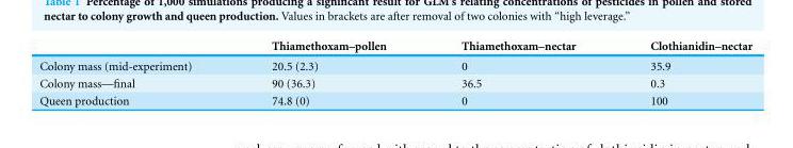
<table><thead><tr><td></td><td>Thiamethoxam–pollen</td><td>Thiamethoxam–nectar</td><td>Clothianidin–nectar</td></tr></thead><tbody><tr><td>Colony mass (mid-experiment)</td><td>20.5 (2.3)</td><td>0</td><td>35.9</td></tr><tr><td>Colony mass—final</td><td>90 (36.3)</td><td>36.5</td><td>0.3</td></tr><tr><td>Queen production</td><td>74.8 (0)</td><td>0</td><td>100</td></tr></tbody></table>